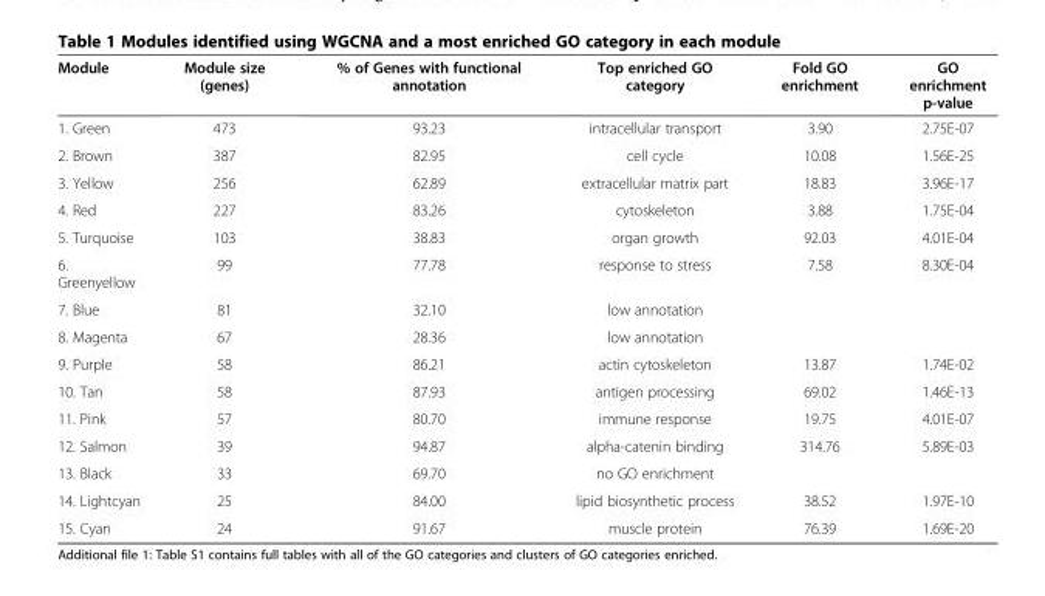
<table><thead><tr><td>Module</td><td>Module size (genes)</td><td>% of Genes with functional annotation</td><td>Top enriched GO category</td><td>Fold GO enrichment</td><td>GO enrichment p-value</td></tr></thead><tbody><tr><td>1. Green</td><td>473</td><td>93.23</td><td>intracellular transport</td><td>3.90</td><td>2.75E-07</td></tr><tr><td>2. Brown</td><td>387</td><td>82.95</td><td>cell cycle</td><td>10.08</td><td>1.56E-25</td></tr><tr><td>3. Yellow</td><td>256</td><td>62.89</td><td>extracellular matrix part</td><td>18.83</td><td>3.96E-17</td></tr><tr><td>4. Red</td><td>227</td><td>83.26</td><td>cytoskeleton</td><td>3.88</td><td>1.75E-04</td></tr><tr><td>5. Turquoise</td><td>103</td><td>38.83</td><td>organ growth</td><td>92.03</td><td>4.01E-04</td></tr><tr><td>6. Greenyellow</td><td>99</td><td>77.78</td><td>response to stress</td><td>7.58</td><td>8.30E-04</td></tr><tr><td>7. Blue</td><td>81</td><td>32.10</td><td>low annotation</td><td></td><td></td></tr><tr><td>8. Magenta</td><td>67</td><td>28.36</td><td>low annotation</td><td></td><td></td></tr><tr><td>9. Purple</td><td>58</td><td>86.21</td><td>actin cytoskeleton</td><td>13.87</td><td>1.74E-02</td></tr><tr><td>10. Tan</td><td>58</td><td>87.93</td><td>antigen processing</td><td>69.02</td><td>1.46E-13</td></tr><tr><td>11. Pink</td><td>57</td><td>80.70</td><td>immune response</td><td>19.75</td><td>4.01E-07</td></tr><tr><td>12. Salmon</td><td>39</td><td>94.87</td><td>alpha-catenin binding</td><td>314.76</td><td>5.89E-03</td></tr><tr><td>13. Black</td><td>33</td><td>69.70</td><td>no GO enrichment</td><td></td><td></td></tr><tr><td>14. Lightcyan</td><td>25</td><td>84.00</td><td>lipid biosynthetic process</td><td>38.52</td><td>1.97E-10</td></tr><tr><td>15. Cyan</td><td>24</td><td>91.67</td><td>muscle protein</td><td>76.39</td><td>1.69E-20</td></tr></tbody></table>